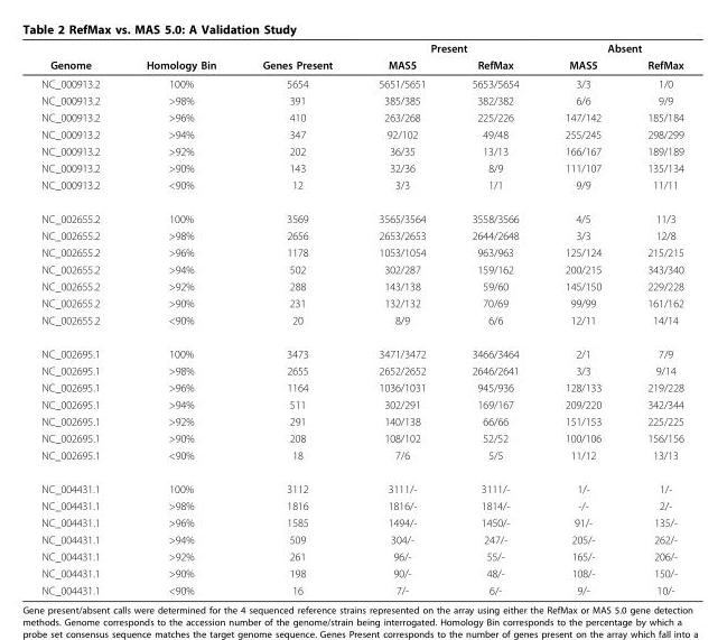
<table><thead><tr><td rowspan="2">Genome</td><td rowspan="2">Homology Bin</td><td rowspan="2">Genes Present</td><td colspan="2">Present</td><td colspan="2">Absent</td></tr><tr><td>MAS5</td><td>RefMax</td><td>MAS5</td><td>RefMax</td></tr></thead><tbody><tr><td>NC_000913.2</td><td>100%</td><td>5654</td><td>5651/5651</td><td>5653/5654</td><td>3/3</td><td>1/0</td></tr><tr><td>NC_000913.2</td><td>&gt;98%</td><td>391</td><td>385/385</td><td>382/382</td><td>6/6</td><td>9/9</td></tr><tr><td>NC_000913.2</td><td>&gt;96%</td><td>410</td><td>263/268</td><td>225/226</td><td>147/142</td><td>185/184</td></tr><tr><td>NC_000913.2</td><td>&gt;94%</td><td>347</td><td>92/102</td><td>49/48</td><td>255/245</td><td>298/299</td></tr><tr><td>NC_000913.2</td><td>&gt;92%</td><td>202</td><td>36/35</td><td>13/13</td><td>166/167</td><td>189/189</td></tr><tr><td>NC_000913.2</td><td>&gt;90%</td><td>143</td><td>32/36</td><td>8/9</td><td>111/107</td><td>135/134</td></tr><tr><td>NC_000913.2</td><td>&lt;90%</td><td>12</td><td>3/3</td><td>1/1</td><td>9/9</td><td>11/11</td></tr><tr><td>NC_002655.2</td><td>100%</td><td>3569</td><td>3565/3564</td><td>3558/3566</td><td>4/5</td><td>11/3</td></tr><tr><td>NC_002655.2</td><td>&gt;98%</td><td>2656</td><td>2653/2653</td><td>2644/2648</td><td>3/3</td><td>12/8</td></tr><tr><td>NC_002655.2</td><td>&gt;96%</td><td>1178</td><td>1053/1054</td><td>963/963</td><td>125/124</td><td>215/215</td></tr><tr><td>NC_002655.2</td><td>&gt;94%</td><td>502</td><td>302/287</td><td>159/162</td><td>200/215</td><td>343/340</td></tr><tr><td>NC_002655.2</td><td>&gt;92%</td><td>288</td><td>143/138</td><td>59/60</td><td>145/150</td><td>229/228</td></tr><tr><td>NC_002655.2</td><td>&gt;90%</td><td>231</td><td>132/132</td><td>70/69</td><td>99/99</td><td>161/162</td></tr><tr><td>NC_002655.2</td><td>&lt;90%</td><td>20</td><td>8/9</td><td>6/6</td><td>12/11</td><td>14/14</td></tr><tr><td>NC_002695.1</td><td>100%</td><td>3473</td><td>3471/3472</td><td>3466/3464</td><td>2/1</td><td>7/9</td></tr><tr><td>NC_002695.1</td><td>&gt;98%</td><td>2655</td><td>2652/2652</td><td>2646/2641</td><td>3/3</td><td>9/14</td></tr><tr><td>NC_002695.1</td><td>&gt;96%</td><td>1164</td><td>1036/1031</td><td>945/936</td><td>128/133</td><td>219/228</td></tr><tr><td>NC_002695.1</td><td>&gt;94%</td><td>511</td><td>302/291</td><td>169/167</td><td>209/220</td><td>342/344</td></tr><tr><td>NC_002695.1</td><td>&gt;92%</td><td>291</td><td>140/138</td><td>66/66</td><td>151/153</td><td>225/225</td></tr><tr><td>NC_002695.1</td><td>&gt;90%</td><td>208</td><td>108/102</td><td>52/52</td><td>100/106</td><td>156/156</td></tr><tr><td>NC_002695.1</td><td>&lt;90%</td><td>18</td><td>7/6</td><td>5/5</td><td>11/12</td><td>13/13</td></tr><tr><td>NC_004431.1</td><td>100%</td><td>3112</td><td>3111/-</td><td>3111/-</td><td>1/-</td><td>1/-</td></tr><tr><td>NC_004431.1</td><td>&gt;98%</td><td>1816</td><td>1816/-</td><td>1814/-</td><td>-/-</td><td>2/-</td></tr><tr><td>NC_004431.1</td><td>&gt;96%</td><td>1585</td><td>1494/-</td><td>1450/-</td><td>91/-</td><td>135/-</td></tr><tr><td>NC_004431.1</td><td>&gt;94%</td><td>509</td><td>304/-</td><td>247/-</td><td>205/-</td><td>262/-</td></tr><tr><td>NC_004431.1</td><td>&gt;92%</td><td>261</td><td>96/-</td><td>55/-</td><td>165/-</td><td>206/-</td></tr><tr><td>NC_004431.1</td><td>&gt;90%</td><td>198</td><td>90/-</td><td>48/-</td><td>108/-</td><td>150/-</td></tr><tr><td>NC_004431.1</td><td>&lt;90%</td><td>16</td><td>7/-</td><td>6/-</td><td>9/-</td><td>10/-</td></tr></tbody></table>